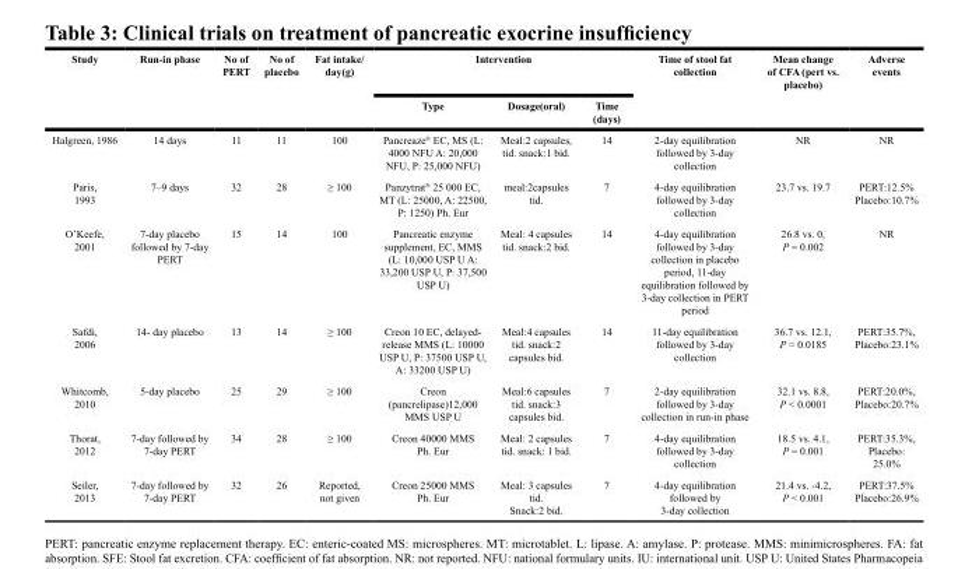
<table><thead><tr><td rowspan="2">Study</td><td rowspan="2">Run-in phase</td><td rowspan="2">No of PERT</td><td rowspan="2">No of placebo</td><td rowspan="2">Fat intake/ day(g)</td><td colspan="3">Intervention</td><td rowspan="2">Time of stool fat collection</td><td rowspan="2">Mean change of CFA (pert vs. placebo)</td><td rowspan="2">Adverse events</td></tr><tr><td>Type</td><td>Dosage(oral)</td><td>Time (days)</td></tr></thead><tbody><tr><td>Halgreen, 1986</td><td>14 days</td><td>11</td><td>11</td><td>100</td><td>Pancreaze<sup>®</sup> EC, MS (L: 4000 NFU A: 20,000 NFU, P: 25,000 NFU)</td><td>Meal:2 capsules, tid. snack:1 bid.</td><td>14</td><td>2-day equilibration followed by 3-day collection</td><td>NR</td><td>NR</td></tr><tr><td>Paris, 1993</td><td>7–9 days</td><td>32</td><td>28</td><td>≥ 100</td><td>Panzytrat<sup>®</sup> 25 000 EC, MT (L: 25000, A: 22500, P: 1250) Ph. Eur</td><td>meal:2capsules tid.</td><td>7</td><td>4-day equilibration followed by 3-day collection</td><td>23.7 vs. 19.7</td><td>PERT:12.5% Placebo:10.7%</td></tr><tr><td>O’Keefe, 2001</td><td>7-day placebo followed by 7-day PERT</td><td>15</td><td>14</td><td>100</td><td>Pancreatic enzyme supplement, EC, MMS (L: 10,000 USP U A: 33,200 USP U, P: 37,500 USP U)</td><td>Meal: 4 capsules tid. snack:2 bid.</td><td>14</td><td>4-day equilibration followed by 3-day collection in placebo period, 11-day equilibration followed by 3-day collection in PERT period</td><td>26.8 vs. 0, P = 0.002</td><td>NR</td></tr><tr><td>Safdi, 2006</td><td>14- day placebo</td><td>13</td><td>14</td><td>≥ 100</td><td>Creon 10 EC, delayed- release MMS (L: 10000 USP U, P: 37500 USP U, A: 33200 USP U)</td><td>Meal:4 capsules tid. snack:2 capsules bid.</td><td>14</td><td>11-day equilibration followed by 3-day collection</td><td>36.7 vs. 12.1, P = 0.0185</td><td>PERT:35.7%, Placebo:23.1%</td></tr><tr><td>Whitcomb, 2010</td><td>5-day placebo</td><td>25</td><td>29</td><td>≥ 100</td><td>Creon (pancrelipase)12,000 MMS USP U</td><td>Meal:6 capsules tid. snack:3 capsules bid.</td><td>7</td><td>2-day equilibration followed by 3-day collection in run-in phase</td><td>32.1 vs. 8.8, P &lt; 0.0001</td><td>PERT:20.0%, Placebo:20.7%</td></tr><tr><td>Thorat, 2012</td><td>7-day followed by 7-day PERT</td><td>34</td><td>28</td><td>≥ 100</td><td>Creon 40000 MMS Ph. Eur</td><td>Meal: 2 capsules tid. snack: 1 bid.</td><td>7</td><td>4-day equilibration followed by 3-day collection</td><td>18.5 vs. 4.1, P = 0.001</td><td>PERT:35.3%, Placebo: 25.0%</td></tr><tr><td>Seiler, 2013</td><td>7-day followed by 7-day PERT</td><td>32</td><td>26</td><td>Reported, not given</td><td>Creon 25000 MMS Ph. Eur</td><td>Meal: 3 capsules tid. Snack:2 bid.</td><td>7</td><td>4-day equilibration followed by 3-day collection</td><td>21.4 vs. -4.2, P &lt; 0.001</td><td>PERT:37.5% Placebo:26.9%</td></tr></tbody></table>